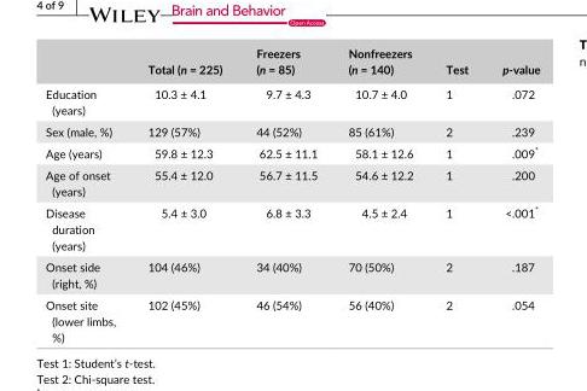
<table><thead><tr><td></td><td>Total (n = 225)</td><td>Freezers (n = 85)</td><td>Nonfreezers (n = 140)</td><td>Test</td><td>p- value</td></tr></thead><tbody><tr><td>Education (years)</td><td>10.3 ± 4.1</td><td>9.7 ± 4.3</td><td>10.7 ± 4.0</td><td>1</td><td>.072</td></tr><tr><td>Sex (male, %)</td><td>129 (57%)</td><td>44 (52%)</td><td>85 (61%)</td><td>2</td><td>.239</td></tr><tr><td>Age (years)</td><td>59.8 ± 12.3</td><td>62.5 ± 11.1</td><td>58.1 ± 12.6</td><td>1</td><td>.009*</td></tr><tr><td>Age of onset (years)</td><td>55.4 ± 12.0</td><td>56.7 ± 11.5</td><td>54.6 ± 12.2</td><td>1</td><td>.200</td></tr><tr><td>Disease duration (years)</td><td>5.4 ± 3.0</td><td>6.8 ± 3.3</td><td>4.5 ± 2.4</td><td>1</td><td>&lt;.001*</td></tr><tr><td>Onset side (right, %)</td><td>104 (46%)</td><td>34 (40%)</td><td>70 (50%)</td><td>2</td><td>.187</td></tr><tr><td>Onset site (lower limbs, %)</td><td>102 (45%)</td><td>46 (54%)</td><td>56 (40%)</td><td>2</td><td>.054</td></tr></tbody></table>